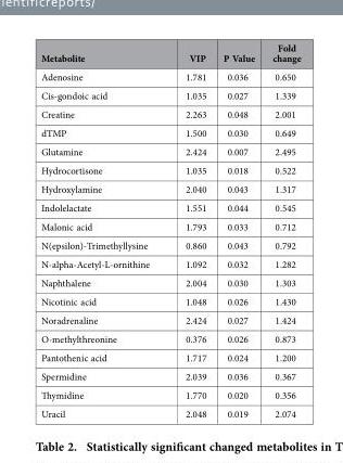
<table><thead><tr><td>Metabolite</td><td>VIP</td><td>P Value</td><td>Fold change</td></tr></thead><tbody><tr><td>Adenosine</td><td>1.781</td><td>0.036</td><td>0.650</td></tr><tr><td>Cis-gondoic acid</td><td>1.035</td><td>0.027</td><td>1.339</td></tr><tr><td>Creatine</td><td>2.263</td><td>0.048</td><td>2.001</td></tr><tr><td>dTMP</td><td>1.500</td><td>0.030</td><td>0.649</td></tr><tr><td>Glutamine</td><td>2.424</td><td>0.007</td><td>2.495</td></tr><tr><td>Hydrocortisone</td><td>1.035</td><td>0.018</td><td>0.522</td></tr><tr><td>Hydroxylamine</td><td>2.040</td><td>0.043</td><td>1.317</td></tr><tr><td>Indolelactate</td><td>1.551</td><td>0.044</td><td>0.545</td></tr><tr><td>Malonic acid</td><td>1.793</td><td>0.033</td><td>0.712</td></tr><tr><td>N(epsilon)-Trimethyllysine</td><td>0.860</td><td>0.043</td><td>0.792</td></tr><tr><td>N-alpha-Acetyl-L-ornithine</td><td>1.092</td><td>0.032</td><td>1.282</td></tr><tr><td>Naphthalene</td><td>2.004</td><td>0.030</td><td>1.303</td></tr><tr><td>Nicotinic acid</td><td>1.048</td><td>0.026</td><td>1.430</td></tr><tr><td>Noradrenaline</td><td>2.424</td><td>0.027</td><td>1.424</td></tr><tr><td>O-methylthreonine</td><td>0.376</td><td>0.026</td><td>0.873</td></tr><tr><td>Pantothenic acid</td><td>1.717</td><td>0.024</td><td>1.200</td></tr><tr><td>Spermidine</td><td>2.039</td><td>0.036</td><td>0.367</td></tr><tr><td>Thymidine</td><td>1.770</td><td>0.020</td><td>0.356</td></tr><tr><td>Uracil</td><td>2.048</td><td>0.019</td><td>2.074</td></tr></tbody></table>